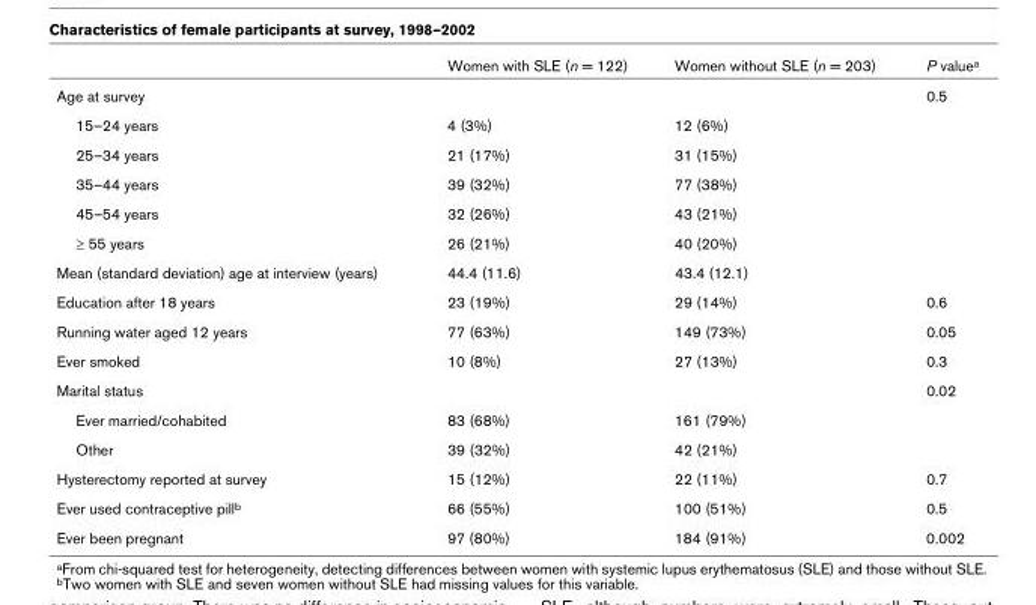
<table><thead><tr><td></td><td>Women with SLE (n = 122)</td><td>Women without SLE (n = 203)</td><td>P value<sup>a</sup></td></tr></thead><tbody><tr><td>Age at survey</td><td></td><td></td><td>0.5</td></tr><tr><td>15–24 years</td><td>4 (3%)</td><td>12 (6%)</td><td></td></tr><tr><td>25–34 years</td><td>21 (17%)</td><td>31 (15%)</td><td></td></tr><tr><td>35–44 years</td><td>39 (32%)</td><td>77 (38%)</td><td></td></tr><tr><td>45–54 years</td><td>32 (26%)</td><td>43 (21%)</td><td></td></tr><tr><td>≥ 55 years</td><td>26 (21%)</td><td>40 (20%)</td><td></td></tr><tr><td>Mean (standard deviation) age at interview (years)</td><td>44.4 (11.6)</td><td>43.4 (12.1)</td><td></td></tr><tr><td>Education after 18 years</td><td>23 (19%)</td><td>29 (14%)</td><td>0.6</td></tr><tr><td>Running water aged 12 years</td><td>77 (63%)</td><td>149 (73%)</td><td>0.05</td></tr><tr><td>Ever smoked</td><td>10 (8%)</td><td>27 (13%)</td><td>0.3</td></tr><tr><td>Marital status</td><td></td><td></td><td>0.02</td></tr><tr><td>Ever married/cohabited</td><td>83 (68%)</td><td>161 (79%)</td><td></td></tr><tr><td>Other</td><td>39 (32%)</td><td>42 (21%)</td><td></td></tr><tr><td>Hysterectomy reported at survey</td><td>15 (12%)</td><td>22 (11%)</td><td>0.7</td></tr><tr><td>Ever used contraceptive pill<sup>b</sup></td><td>66 (55%)</td><td>100 (51%)</td><td>0.5</td></tr><tr><td>Ever been pregnant</td><td>97 (80%)</td><td>184 (91%)</td><td>0.002</td></tr></tbody></table>